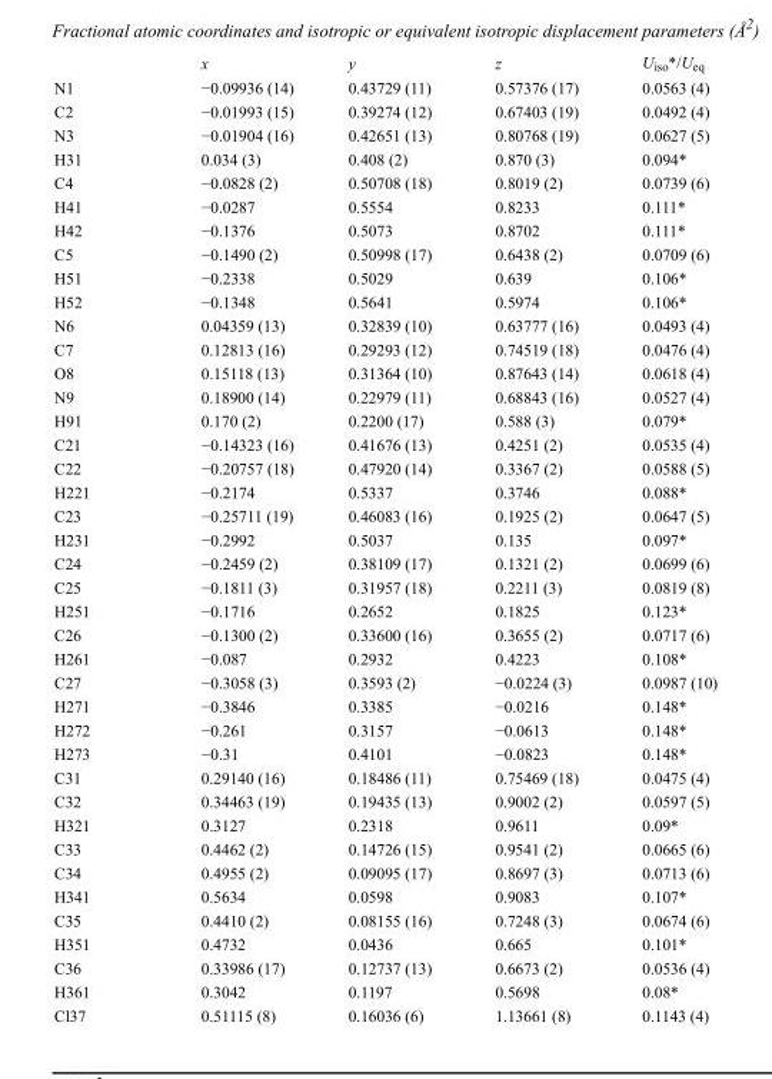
<table><thead><tr><td></td><td>x</td><td>y</td><td>z</td><td>U<sub>iso</sub>*/U<sub>eq</sub></td></tr></thead><tbody><tr><td>N1</td><td>−0.09936 (14)</td><td>0.43729 (11)</td><td>0.57376 (17)</td><td>0.0563 (4)</td></tr><tr><td>C2</td><td>−0.01993 (15)</td><td>0.39274 (12)</td><td>0.67403 (19)</td><td>0.0492 (4)</td></tr><tr><td>N3</td><td>−0.01904 (16)</td><td>0.42651 (13)</td><td>0.80768 (19)</td><td>0.0627 (5)</td></tr><tr><td>H31</td><td>0.034 (3)</td><td>0.408 (2)</td><td>0.870 (3)</td><td>0.094*</td></tr><tr><td>C4</td><td>−0.0828 (2)</td><td>0.50708 (18)</td><td>0.8019 (2)</td><td>0.0739 (6)</td></tr><tr><td>H41</td><td>−0.0287</td><td>0.5554</td><td>0.8233</td><td>0.111*</td></tr><tr><td>H42</td><td>−0.1376</td><td>0.5073</td><td>0.8702</td><td>0.111*</td></tr><tr><td>C5</td><td>−0.1490 (2)</td><td>0.50998 (17)</td><td>0.6438 (2)</td><td>0.0709 (6)</td></tr><tr><td>H51</td><td>−0.2338</td><td>0.5029</td><td>0.639</td><td>0.106*</td></tr><tr><td>H52</td><td>−0.1348</td><td>0.5641</td><td>0.5974</td><td>0.106*</td></tr><tr><td>N6</td><td>0.04359 (13)</td><td>0.32839 (10)</td><td>0.63777 (16)</td><td>0.0493 (4)</td></tr><tr><td>C7</td><td>0.12813 (16)</td><td>0.29293 (12)</td><td>0.74519 (18)</td><td>0.0476 (4)</td></tr><tr><td>O8</td><td>0.15118 (13)</td><td>0.31364 (10)</td><td>0.87643 (14)</td><td>0.0618 (4)</td></tr><tr><td>N9</td><td>0.18900 (14)</td><td>0.22979 (11)</td><td>0.68843 (16)</td><td>0.0527 (4)</td></tr><tr><td>H91</td><td>0.170 (2)</td><td>0.2200 (17)</td><td>0.588 (3)</td><td>0.079*</td></tr><tr><td>C21</td><td>−0.14323 (16)</td><td>0.41676 (13)</td><td>0.4251 (2)</td><td>0.0535 (4)</td></tr><tr><td>C22</td><td>−0.20757 (18)</td><td>0.47920 (14)</td><td>0.3367 (2)</td><td>0.0588 (5)</td></tr><tr><td>H221</td><td>−0.2174</td><td>0.5337</td><td>0.3746</td><td>0.088*</td></tr><tr><td>C23</td><td>−0.25711 (19)</td><td>0.46083 (16)</td><td>0.1925 (2)</td><td>0.0647 (5)</td></tr><tr><td>H231</td><td>−0.2992</td><td>0.5037</td><td>0.135</td><td>0.097*</td></tr><tr><td>C24</td><td>−0.2459 (2)</td><td>0.38109 (17)</td><td>0.1321 (2)</td><td>0.0699 (6)</td></tr><tr><td>C25</td><td>−0.1811 (3)</td><td>0.31957 (18)</td><td>0.2211 (3)</td><td>0.0819 (8)</td></tr><tr><td>H251</td><td>−0.1716</td><td>0.2652</td><td>0.1825</td><td>0.123*</td></tr><tr><td>C26</td><td>−0.1300 (2)</td><td>0.33600 (16)</td><td>0.3655 (2)</td><td>0.0717 (6)</td></tr><tr><td>H261</td><td>−0.087</td><td>0.2932</td><td>0.4223</td><td>0.108*</td></tr><tr><td>C27</td><td>−0.3058 (3)</td><td>0.3593 (2)</td><td>−0.0224 (3)</td><td>0.0987 (10)</td></tr><tr><td>H271</td><td>−0.3846</td><td>0.3385</td><td>−0.0216</td><td>0.148*</td></tr><tr><td>H272</td><td>−0.261</td><td>0.3157</td><td>−0.0613</td><td>0.148*</td></tr><tr><td>H273</td><td>−0.31</td><td>0.4101</td><td>−0.0823</td><td>0.148*</td></tr><tr><td>C31</td><td>0.29140 (16)</td><td>0.18486 (11)</td><td>0.75469 (18)</td><td>0.0475 (4)</td></tr><tr><td>C32</td><td>0.34463 (19)</td><td>0.19435 (13)</td><td>0.9002 (2)</td><td>0.0597 (5)</td></tr><tr><td>H321</td><td>0.3127</td><td>0.2318</td><td>0.9611</td><td>0.09*</td></tr><tr><td>C33</td><td>0.4462 (2)</td><td>0.14726 (15)</td><td>0.9541 (2)</td><td>0.0665 (6)</td></tr><tr><td>C34</td><td>0.4955 (2)</td><td>0.09095 (17)</td><td>0.8697 (3)</td><td>0.0713 (6)</td></tr><tr><td>H341</td><td>0.5634</td><td>0.0598</td><td>0.9083</td><td>0.107*</td></tr><tr><td>C35</td><td>0.4410 (2)</td><td>0.08155 (16)</td><td>0.7248 (3)</td><td>0.0674 (6)</td></tr><tr><td>H351</td><td>0.4732</td><td>0.0436</td><td>0.665</td><td>0.101*</td></tr><tr><td>C36</td><td>0.33986 (17)</td><td>0.12737 (13)</td><td>0.6673 (2)</td><td>0.0536 (4)</td></tr><tr><td>H361</td><td>0.3042</td><td>0.1197</td><td>0.5698</td><td>0.08*</td></tr><tr><td>Cl37</td><td>0.51115 (8)</td><td>0.16036 (6)</td><td>1.13661 (8)</td><td>0.1143 (4)</td></tr></tbody></table>